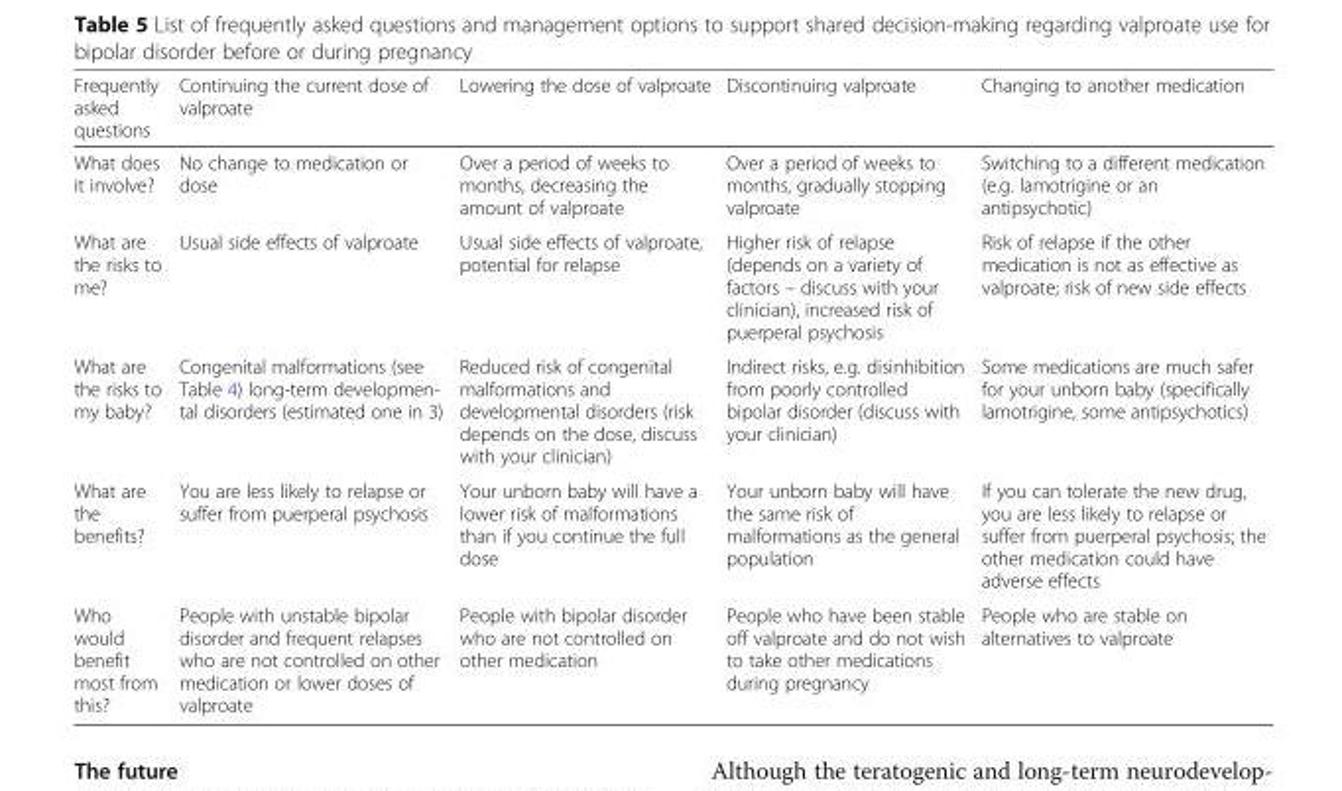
<table><thead><tr><td>Frequently asked questions</td><td>Continuing the current dose of valproate</td><td>Lowering the dose of valproate</td><td>Discontinuing valproate</td><td>Changing to another medication</td></tr></thead><tbody><tr><td>What does it involve?</td><td>No change to medication or dose</td><td>Over a period of weeks to months, decreasing the amount of valproate</td><td>Over a period of weeks to months, gradually stopping valproate</td><td>Switching to a different medication (e.g. lamotrigine or an antipsychotic)</td></tr><tr><td>What are the risks to me?</td><td>Usual side effects of valproate</td><td>Usual side effects of valproate, potential for relapse</td><td>Higher risk of relapse (depends on a variety of factors – discuss with your clinician), increased risk of puerperal psychosis</td><td>Risk of relapse if the other medication is not as effective as valproate; risk of new side effects</td></tr><tr><td>What are the risks to my baby?</td><td>Congenital malformations (see Table 4) long-term developmen- tal disorders (estimated one in 3)</td><td>Reduced risk of congenital malformations and developmental disorders (risk depends on the dose, discuss with your clinician)</td><td>Indirect risks, e.g. disinhibition from poorly controlled bipolar disorder (discuss with your clinician)</td><td>Some medications are much safer for your unborn baby (specifically lamotrigine, some antipsychotics)</td></tr><tr><td>What are the benefits?</td><td>You are less likely to relapse or suffer from puerperal psychosis</td><td>Your unborn baby will have a lower risk of malformations than if you continue the full dose</td><td>Your unborn baby will have the same risk of malformations as the general population</td><td>If you can tolerate the new drug, you are less likely to relapse or suffer from puerperal psychosis; the other medication could have adverse effects</td></tr><tr><td>Who would benefit most from this?</td><td>People with unstable bipolar disorder and frequent relapses who are not controlled on other medication or lower doses of valproate</td><td>People with bipolar disorder who are not controlled on other medication</td><td>People who have been stable off valproate and do not wish to take other medications during pregnancy</td><td>People who are stable on alternatives to valproate</td></tr></tbody></table>